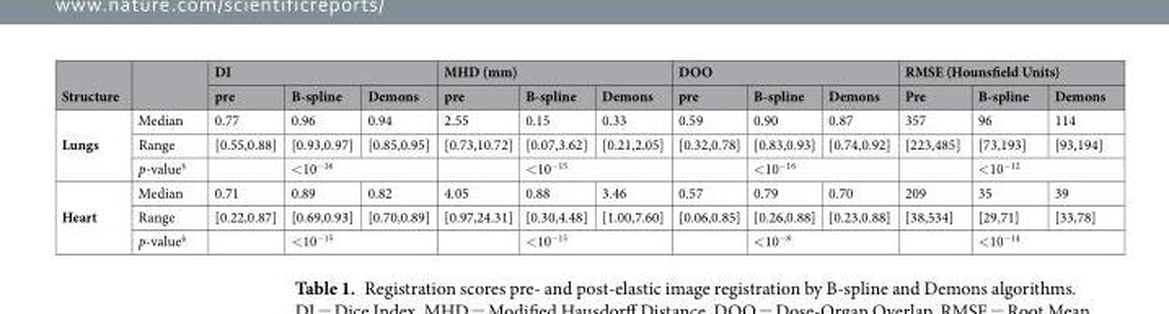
<table><thead><tr><td rowspan="2">Structure</td><td rowspan="2"></td><td colspan="3">DI</td><td colspan="3">MHD (mm)</td><td colspan="3">DOO</td><td colspan="3">RMSE (Hounsfield Units)</td></tr><tr><td>pre</td><td>B-spline</td><td>Demons</td><td>pre</td><td>B-spline</td><td>Demons</td><td>pre</td><td>B-spline</td><td>Demons</td><td>Pre</td><td>B-spline</td><td>Demons</td></tr></thead><tbody><tr><td rowspan="3">Lungs</td><td>Median</td><td>0.77</td><td>0.96</td><td>0.94</td><td>2.55</td><td>0.15</td><td>0.33</td><td>0.59</td><td>0.90</td><td>0.87</td><td>357</td><td>96</td><td>114</td></tr><tr><td>Range</td><td>[0.55,0.88]</td><td>[0.93,0.97]</td><td>[0.85,0.95]</td><td>[0.73,10.72]</td><td>[0.07,3.62]</td><td>[0.21,2.05]</td><td>[0.32,0.78]</td><td>[0.83,0.93]</td><td>[0.74,0.92]</td><td>[223,485]</td><td>[73,193]</td><td>[93,194]</td></tr><tr><td>p-value<sup>§</sup></td><td></td><td colspan="2">&lt;10<sup>−16</sup></td><td></td><td colspan="2">&lt;10<sup>−15</sup></td><td></td><td colspan="2">&lt;10<sup>−16</sup></td><td></td><td colspan="2">&lt;10<sup>−12</sup></td></tr><tr><td rowspan="3">Heart</td><td>Median</td><td>0.71</td><td>0.89</td><td>0.82</td><td>4.05</td><td>0.88</td><td>3.46</td><td>0.57</td><td>0.79</td><td>0.70</td><td>209</td><td>35</td><td>39</td></tr><tr><td>Range</td><td>[0.22,0.87]</td><td>[0.69,0.93]</td><td>[0.70,0.89]</td><td>[0.97,24.31]</td><td>[0.30,4.48]</td><td>[1.00,7.60]</td><td>[0.06,0.85]</td><td>[0.26,0.88]</td><td>[0.23,0.88]</td><td>[38,534]</td><td>[29,71]</td><td>[33,78]</td></tr><tr><td>p-value<sup>§</sup></td><td></td><td colspan="2">&lt;10<sup>−15</sup></td><td></td><td colspan="2">&lt;10<sup>−15</sup></td><td></td><td colspan="2">&lt;10<sup>−8</sup></td><td></td><td colspan="2">&lt;10<sup>−14</sup></td></tr></tbody></table>